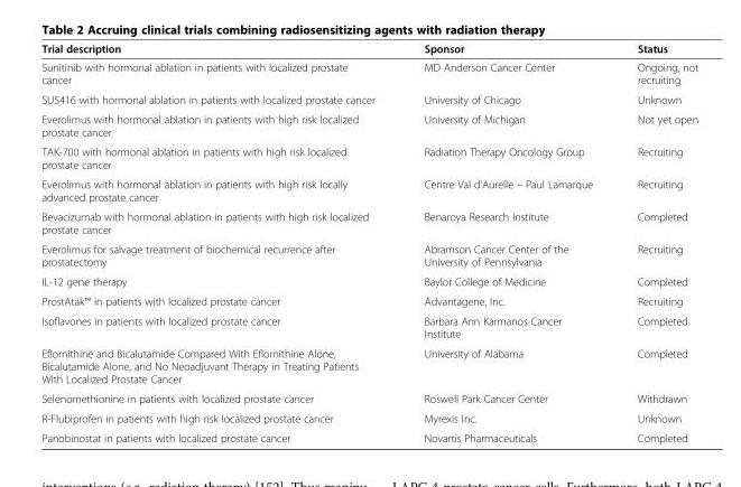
<table><thead><tr><td>Trial description</td><td>Sponsor</td><td>Status</td></tr></thead><tbody><tr><td>Sunitinib with hormonal ablation in patients with localized prostate cancer</td><td>MD Anderson Cancer Center</td><td>Ongoing, not recruiting</td></tr><tr><td>SU5416 with hormonal ablation in patients with localized prostate cancer</td><td>University of Chicago</td><td>Unknown</td></tr><tr><td>Everolimus with hormonal ablation in patients with high risk localized prostate cancer</td><td>University of Michigan</td><td>Not yet open</td></tr><tr><td>TAK-700 with hormonal ablation in patients with high risk localized prostate cancer</td><td>Radiation Therapy Oncology Group</td><td>Recruiting</td></tr><tr><td>Everolimus with hormonal ablation in patients with high risk locally advanced prostate cancer</td><td>Centre Val d’Aurelle – Paul Lamarque</td><td>Recruiting</td></tr><tr><td>Bevacizumab with hormonal ablation in patients with high risk localized prostate cancer</td><td>Benaroya Research Institute</td><td>Completed</td></tr><tr><td>Everolimus for salvage treatment of biochemical recurrence after prostatectomy</td><td>Abramson Cancer Center of the University of Pennsylvania</td><td>Recruiting</td></tr><tr><td>IL-12 gene therapy</td><td>Baylor College of Medicine</td><td>Completed</td></tr><tr><td>ProstAtak™ in patients with localized prostate cancer</td><td>Advantagene, Inc.</td><td>Recruiting</td></tr><tr><td>Isoflavones in patients with localized prostate cancer</td><td>Barbara Ann Karmanos Cancer Institute</td><td>Completed</td></tr><tr><td>Eflornithine and Bicalutamide Compared With Eflornithine Alone, Bicalutamide Alone, and No Neoadjuvant Therapy in Treating Patients With Localized Prostate Cancer</td><td>University of Alabama</td><td>Completed</td></tr><tr><td>Selenomethionine in patients with localized prostate cancer</td><td>Roswell Park Cancer Center</td><td>Withdrawn</td></tr><tr><td>R-Flubiprofen in patients with high risk localized prostate cancer</td><td>Myrexis Inc.</td><td>Unknown</td></tr><tr><td>Panobinostat in patients with localized prostate cancer</td><td>Novartis Pharmaceuticals</td><td>Completed</td></tr></tbody></table>